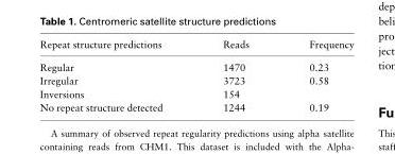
<table><thead><tr><td>Repeat structure predictions</td><td>Reads</td><td>Frequency</td></tr></thead><tbody><tr><td>Regular</td><td>1470</td><td>0.23</td></tr><tr><td>Irregular</td><td>3723</td><td>0.58</td></tr><tr><td>Inversions</td><td>154</td><td></td></tr><tr><td>No repeat structure detected</td><td>1244</td><td>0.19</td></tr></tbody></table>